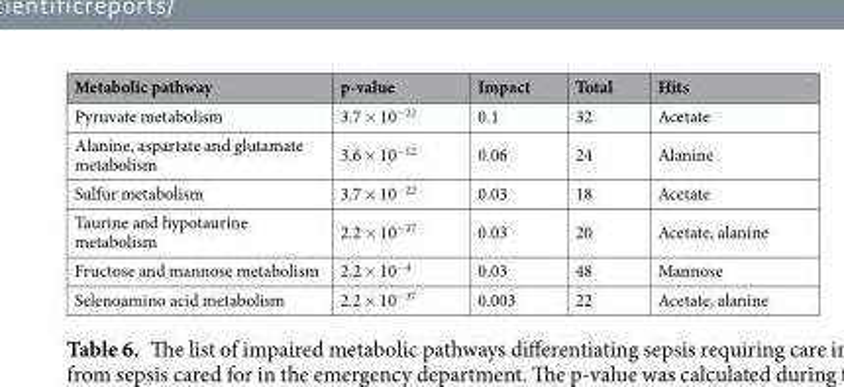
<table><thead><tr><td>Metabolic pathway</td><td>p-value</td><td>Impact</td><td>Total</td><td>Hits</td></tr></thead><tbody><tr><td>Pyruvate metabolism</td><td>3.7 × 10<sup>−22</sup></td><td>0.1</td><td>32</td><td>Acetate</td></tr><tr><td>Alanine, aspartate and glutamate metabolism</td><td>3.6 × 10<sup>−12</sup></td><td>0.06</td><td>24</td><td>Alanine</td></tr><tr><td>Sulfur metabolism</td><td>3.7 × 10<sup>−22</sup></td><td>0.03</td><td>18</td><td>Acetate</td></tr><tr><td>Taurine and hypotaurine metabolism</td><td>2.2 × 10<sup>−37</sup></td><td>0.03</td><td>20</td><td>Acetate, alanine</td></tr><tr><td>Fructose and mannose metabolism</td><td>2.2 × 10<sup>−4</sup></td><td>0.03</td><td>48</td><td>Mannose</td></tr><tr><td>Selenoamino acid metabolism</td><td>2.2 × 10<sup>−37</sup></td><td>0.003</td><td>22</td><td>Acetate, alanine</td></tr></tbody></table>